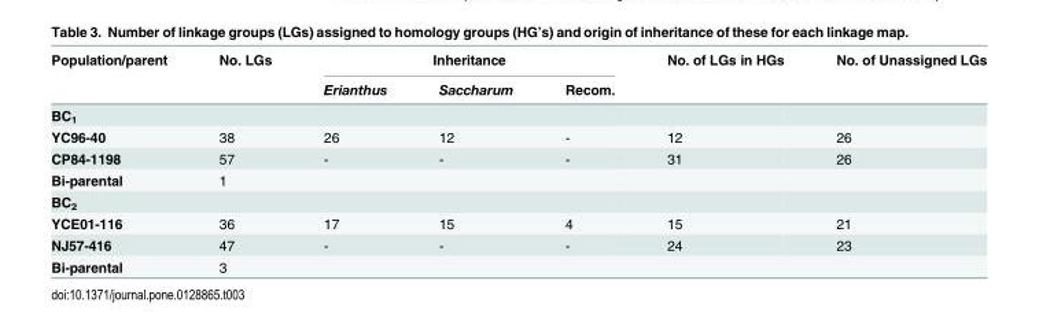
<table><thead><tr><td rowspan="2">Population/parent</td><td rowspan="2">No. LGs</td><td colspan="3">Inheritance</td><td rowspan="2">No. of LGs in HGs</td><td rowspan="2">No. of Unassigned LGs</td></tr><tr><td>Erianthus</td><td>Saccharum</td><td>Recom.</td></tr></thead><tbody><tr><td colspan="7">BC<sub>1</sub></td></tr><tr><td>YC96-40</td><td>38</td><td>26</td><td>12</td><td>-</td><td>12</td><td>26</td></tr><tr><td>CP84-1198</td><td>57</td><td>-</td><td>-</td><td>-</td><td>31</td><td>26</td></tr><tr><td>Bi-parental</td><td>1</td><td></td><td></td><td></td><td></td><td></td></tr><tr><td colspan="7">BC<sub>2</sub></td></tr><tr><td>YCE01-116</td><td>36</td><td>17</td><td>15</td><td>4</td><td>15</td><td>21</td></tr><tr><td>NJ57-416</td><td>47</td><td>-</td><td>-</td><td>-</td><td>24</td><td>23</td></tr><tr><td>Bi-parental</td><td>3</td><td></td><td></td><td></td><td></td><td></td></tr></tbody></table>